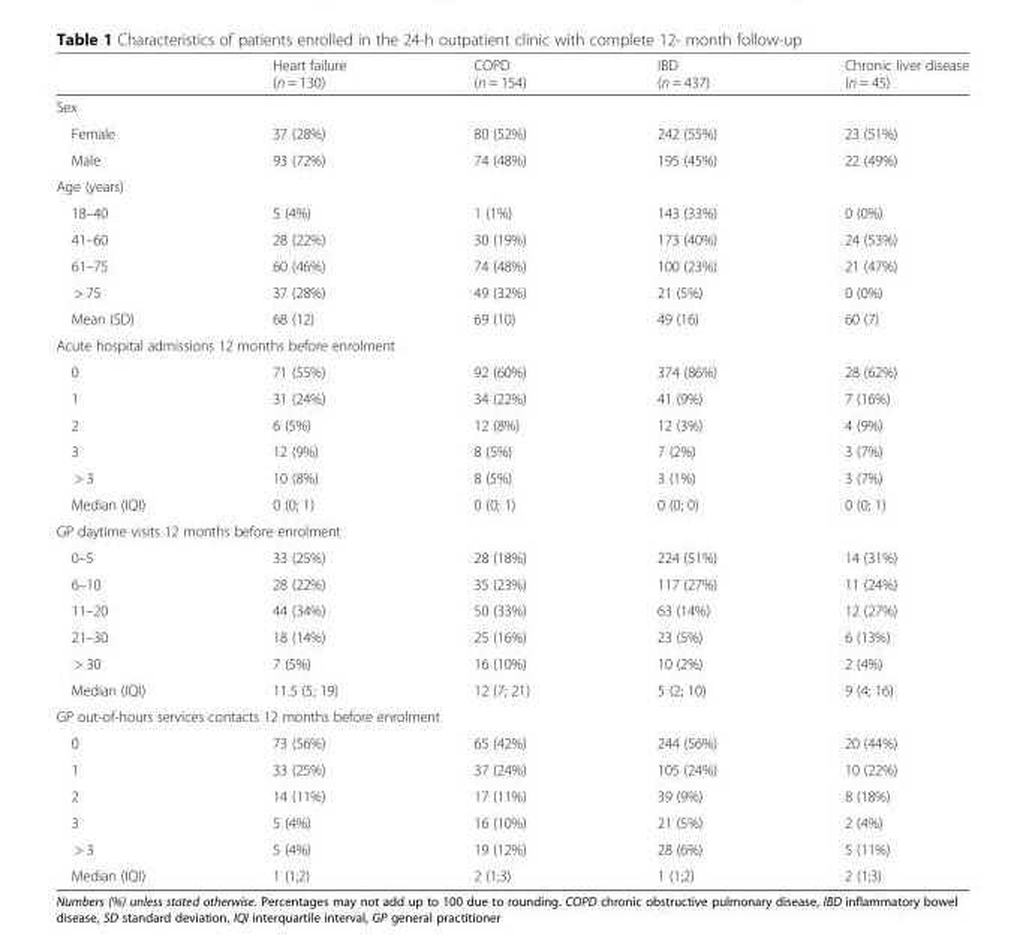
<table><thead><tr><td></td><td>Heart failure (n = 130)</td><td>COPD (n = 154)</td><td>IBD (n = 437)</td><td>Chronic liver disease (n = 45)</td></tr></thead><tbody><tr><td colspan="5">Sex</td></tr><tr><td>Female</td><td>37 (28%)</td><td>80 (52%)</td><td>242 (55%)</td><td>23 (51%)</td></tr><tr><td>Male</td><td>93 (72%)</td><td>74 (48%)</td><td>195 (45%)</td><td>22 (49%)</td></tr><tr><td colspan="5">Age (years)</td></tr><tr><td>18–40</td><td>5 (4%)</td><td>1 (1%)</td><td>143 (33%)</td><td>0 (0%)</td></tr><tr><td>41–60</td><td>28 (22%)</td><td>30 (19%)</td><td>173 (40%)</td><td>24 (53%)</td></tr><tr><td>61–75</td><td>60 (46%)</td><td>74 (48%)</td><td>100 (23%)</td><td>21 (47%)</td></tr><tr><td>&gt; 75</td><td>37 (28%)</td><td>49 (32%)</td><td>21 (5%)</td><td>0 (0%)</td></tr><tr><td>Mean (SD)</td><td>68 (12)</td><td>69 (10)</td><td>49 (16)</td><td>60 (7)</td></tr><tr><td colspan="5">Acute hospital admissions 12 months before enrolment</td></tr><tr><td>0</td><td>71 (55%)</td><td>92 (60%)</td><td>374 (86%)</td><td>28 (62%)</td></tr><tr><td>1</td><td>31 (24%)</td><td>34 (22%)</td><td>41 (9%)</td><td>7 (16%)</td></tr><tr><td>2</td><td>6 (5%)</td><td>12 (8%)</td><td>12 (3%)</td><td>4 (9%)</td></tr><tr><td>3</td><td>12 (9%)</td><td>8 (5%)</td><td>7 (2%)</td><td>3 (7%)</td></tr><tr><td>&gt; 3</td><td>10 (8%)</td><td>8 (5%)</td><td>3 (1%)</td><td>3 (7%)</td></tr><tr><td>Median (IQI)</td><td>0 (0; 1)</td><td>0 (0; 1)</td><td>0 (0; 0)</td><td>0 (0; 1)</td></tr><tr><td colspan="5">GP daytime visits 12 months before enrolment</td></tr><tr><td>0–5</td><td>33 (25%)</td><td>28 (18%)</td><td>224 (51%)</td><td>14 (31%)</td></tr><tr><td>6–10</td><td>28 (22%)</td><td>35 (23%)</td><td>117 (27%)</td><td>11 (24%)</td></tr><tr><td>11–20</td><td>44 (34%)</td><td>50 (33%)</td><td>63 (14%)</td><td>12 (27%)</td></tr><tr><td>21–30</td><td>18 (14%)</td><td>25 (16%)</td><td>23 (5%)</td><td>6 (13%)</td></tr><tr><td>&gt; 30</td><td>7 (5%)</td><td>16 (10%)</td><td>10 (2%)</td><td>2 (4%)</td></tr><tr><td>Median (IQI)</td><td>11.5 (5; 19)</td><td>12 (7; 21)</td><td>5 (2; 10)</td><td>9 (4; 16)</td></tr><tr><td colspan="5">GP out-of-hours services contacts 12 months before enrolment</td></tr><tr><td>0</td><td>73 (56%)</td><td>65 (42%)</td><td>244 (56%)</td><td>20 (44%)</td></tr><tr><td>1</td><td>33 (25%)</td><td>37 (24%)</td><td>105 (24%)</td><td>10 (22%)</td></tr><tr><td>2</td><td>14 (11%)</td><td>17 (11%)</td><td>39 (9%)</td><td>8 (18%)</td></tr><tr><td>3</td><td>5 (4%)</td><td>16 (10%)</td><td>21 (5%)</td><td>2 (4%)</td></tr><tr><td>&gt; 3</td><td>5 (4%)</td><td>19 (12%)</td><td>28 (6%)</td><td>5 (11%)</td></tr><tr><td>Median (IQI)</td><td>1 (1;2)</td><td>2 (1;3)</td><td>1 (1;2)</td><td>2 (1;3)</td></tr></tbody></table>